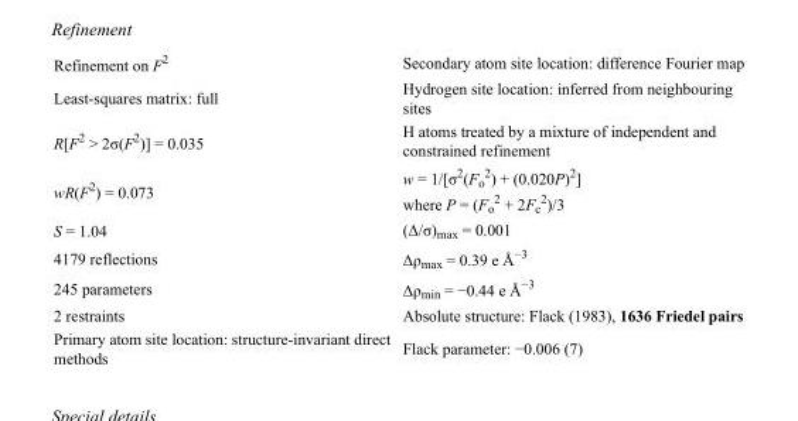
<table><tbody><tr><td>Refinement on F<sup>2</sup></td><td>Secondary atom site location: difference Fourier map</td></tr><tr><td>Least-squares matrix: full</td><td>Hydrogen site location: inferred from neighbouring sites</td></tr><tr><td>R[F<sup>2</sup> &gt; 2σ(F<sup>2</sup>)] = 0.035</td><td>H atoms treated by a mixture of independent and constrained refinement</td></tr><tr><td>wR(F<sup>2</sup>) = 0.073</td><td>w = 1/[σ<sup>2</sup>(F<sub>o</sub> <sup>2</sup>) + (0.020P)<sup>2</sup>] where P = (F<sub>o</sub> <sup>2</sup> + 2F<sub>c</sub> <sup>2</sup>)/3</td></tr><tr><td>S = 1.04</td><td>(Δ/σ)<sub>max</sub> = 0.001</td></tr><tr><td>4179 reflections</td><td>Δρ<sub>max</sub> = 0.39 e Å<sup>−3</sup></td></tr><tr><td>245 parameters</td><td>Δρ<sub>min</sub> = −0.44 e Å<sup>−3</sup></td></tr><tr><td>2 restraints</td><td>Absolute structure: Flack (1983), 1636 Friedel pairs</td></tr><tr><td>Primary atom site location: structure-invariant direct methods</td><td>Flack parameter: −0.006 (7)</td></tr></tbody></table>